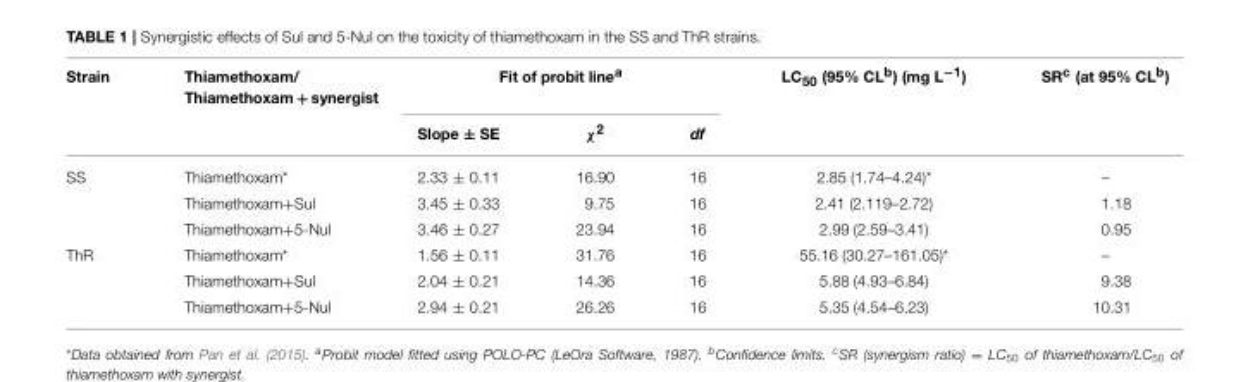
<table><thead><tr><td rowspan="2">Strain</td><td rowspan="2">Thiamethoxam/ Thiamethoxam + synergist</td><td colspan="3">Fit of probit line<sup>a</sup></td><td rowspan="2">LC<sub>50</sub> (95% CL<sup>b</sup>) (mg L<sup>−1</sup>)</td><td rowspan="2">SR<sup>c</sup> (at 95% CL<sup>b</sup>)</td></tr><tr><td>Slope ± SE</td><td>χ<sup>2</sup></td><td>df</td></tr></thead><tbody><tr><td rowspan="3">SS</td><td>Thiamethoxam*</td><td>2.33 ± 0.11</td><td>16.90</td><td>16</td><td>2.85 (1.74–4.24)*</td><td>–</td></tr><tr><td>Thiamethoxam+Sul</td><td>3.45 ± 0.33</td><td>9.75</td><td>16</td><td>2.41 (2.119–2.72)</td><td>1.18</td></tr><tr><td>Thiamethoxam+5-Nul</td><td>3.46 ± 0.27</td><td>23.94</td><td>16</td><td>2.99 (2.59–3.41)</td><td>0.95</td></tr><tr><td rowspan="3">ThR</td><td>Thiamethoxam*</td><td>1.56 ± 0.11</td><td>31.76</td><td>16</td><td>55.16 (30.27–161.05)*</td><td>–</td></tr><tr><td>Thiamethoxam+Sul</td><td>2.04 ± 0.21</td><td>14.36</td><td>16</td><td>5.88 (4.93–6.84)</td><td>9.38</td></tr><tr><td>Thiamethoxam+5-Nul</td><td>2.94 ± 0.21</td><td>26.26</td><td>16</td><td>5.35 (4.54–6.23)</td><td>10.31</td></tr></tbody></table>